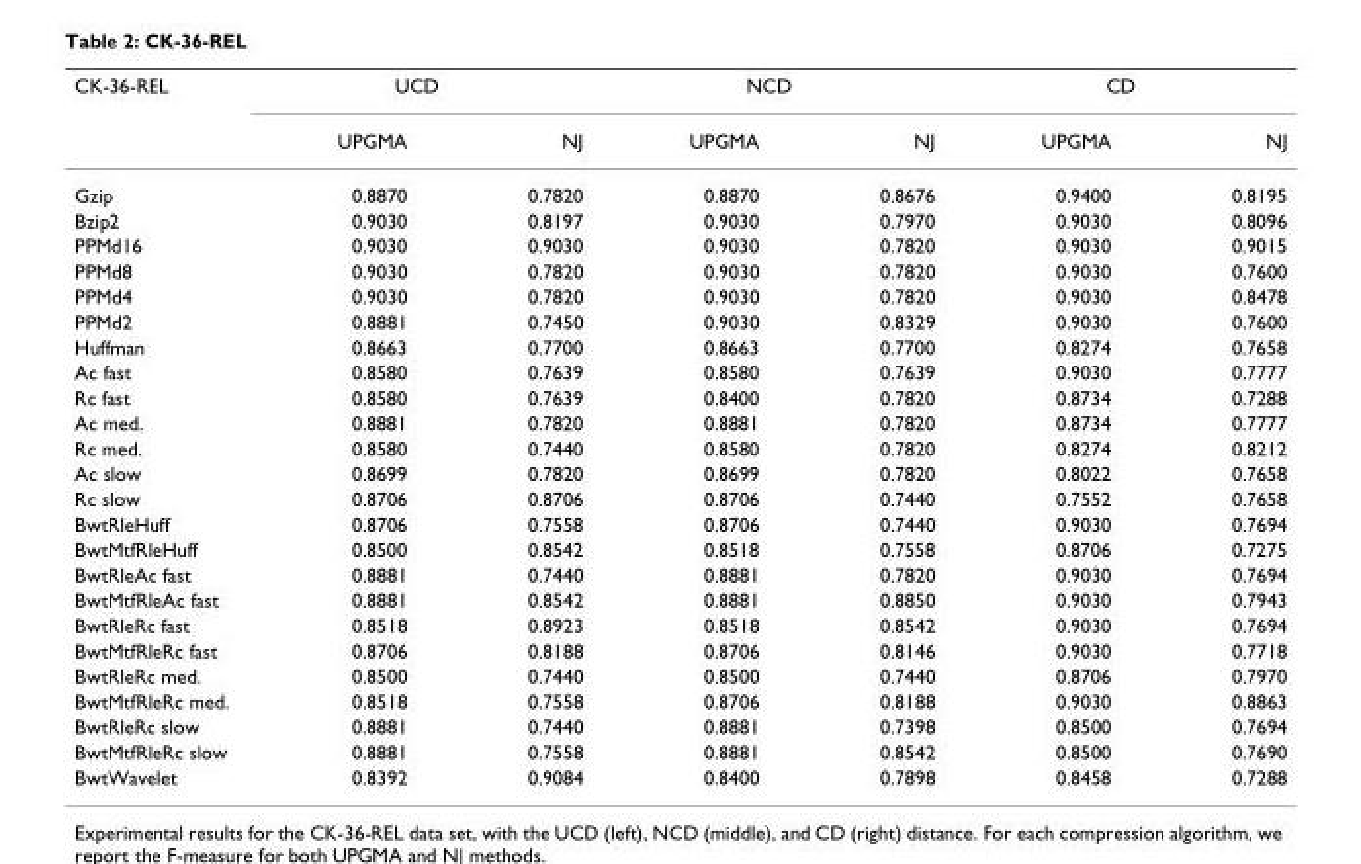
<table><thead><tr><td rowspan="2">CK-36-REL</td><td colspan="2">UCD</td><td colspan="2">NCD</td><td colspan="2">CD</td></tr><tr><td>UPGMA</td><td>NJ</td><td>UPGMA</td><td>NJ</td><td>UPGMA</td><td>NJ</td></tr></thead><tbody><tr><td>Gzip</td><td>0.8870</td><td>0.7820</td><td>0.8870</td><td>0.8676</td><td>0.9400</td><td>0.8195</td></tr><tr><td>Bzip2</td><td>0.9030</td><td>0.8197</td><td>0.9030</td><td>0.7970</td><td>0.9030</td><td>0.8096</td></tr><tr><td>PPMd16</td><td>0.9030</td><td>0.9030</td><td>0.9030</td><td>0.7820</td><td>0.9030</td><td>0.9015</td></tr><tr><td>PPMd8</td><td>0.9030</td><td>0.7820</td><td>0.9030</td><td>0.7820</td><td>0.9030</td><td>0.7600</td></tr><tr><td>PPMd4</td><td>0.9030</td><td>0.7820</td><td>0.9030</td><td>0.7820</td><td>0.9030</td><td>0.8478</td></tr><tr><td>PPMd2</td><td>0.8881</td><td>0.7450</td><td>0.9030</td><td>0.8329</td><td>0.9030</td><td>0.7600</td></tr><tr><td>Huffman</td><td>0.8663</td><td>0.7700</td><td>0.8663</td><td>0.7700</td><td>0.8274</td><td>0.7658</td></tr><tr><td>Ac fast</td><td>0.8580</td><td>0.7639</td><td>0.8580</td><td>0.7639</td><td>0.9030</td><td>0.7777</td></tr><tr><td>Rc fast</td><td>0.8580</td><td>0.7639</td><td>0.8400</td><td>0.7820</td><td>0.8734</td><td>0.7288</td></tr><tr><td>Ac med.</td><td>0.8881</td><td>0.7820</td><td>0.8881</td><td>0.7820</td><td>0.8734</td><td>0.7777</td></tr><tr><td>Rc med.</td><td>0.8580</td><td>0.7440</td><td>0.8580</td><td>0.7820</td><td>0.8274</td><td>0.8212</td></tr><tr><td>Ac slow</td><td>0.8699</td><td>0.7820</td><td>0.8699</td><td>0.7820</td><td>0.8022</td><td>0.7658</td></tr><tr><td>Rc slow</td><td>0.8706</td><td>0.8706</td><td>0.8706</td><td>0.7440</td><td>0.7552</td><td>0.7658</td></tr><tr><td>BwtRleHuff</td><td>0.8706</td><td>0.7558</td><td>0.8706</td><td>0.7440</td><td>0.9030</td><td>0.7694</td></tr><tr><td>BwtMtfRleHuff</td><td>0.8500</td><td>0.8542</td><td>0.8518</td><td>0.7558</td><td>0.8706</td><td>0.7275</td></tr><tr><td>BwtRleAc fast</td><td>0.8881</td><td>0.7440</td><td>0.8881</td><td>0.7820</td><td>0.9030</td><td>0.7694</td></tr><tr><td>BwtMtfRleAc fast</td><td>0.8881</td><td>0.8542</td><td>0.8881</td><td>0.8850</td><td>0.9030</td><td>0.7943</td></tr><tr><td>BwtRleRc fast</td><td>0.8518</td><td>0.8923</td><td>0.8518</td><td>0.8542</td><td>0.9030</td><td>0.7694</td></tr><tr><td>BwtMtfRleRc fast</td><td>0.8706</td><td>0.8188</td><td>0.8706</td><td>0.8146</td><td>0.9030</td><td>0.7718</td></tr><tr><td>BwtRleRc med.</td><td>0.8500</td><td>0.7440</td><td>0.8500</td><td>0.7440</td><td>0.8706</td><td>0.7970</td></tr><tr><td>BwtMtfRleRc med.</td><td>0.8518</td><td>0.7558</td><td>0.8706</td><td>0.8188</td><td>0.9030</td><td>0.8863</td></tr><tr><td>BwtRleRc slow</td><td>0.8881</td><td>0.7440</td><td>0.8881</td><td>0.7398</td><td>0.8500</td><td>0.7694</td></tr><tr><td>BwtMtfRleRc slow</td><td>0.8881</td><td>0.7558</td><td>0.8881</td><td>0.8542</td><td>0.8500</td><td>0.7690</td></tr><tr><td>BwtWavelet</td><td>0.8392</td><td>0.9084</td><td>0.8400</td><td>0.7898</td><td>0.8458</td><td>0.7288</td></tr></tbody></table>